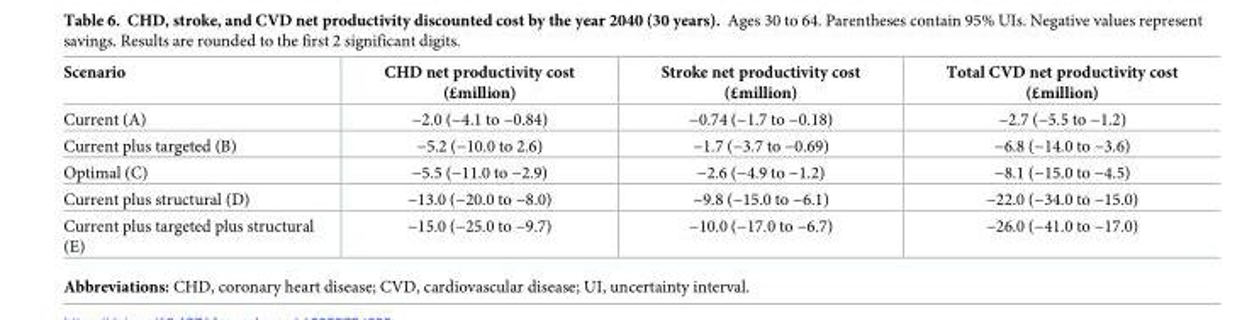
<table><thead><tr><td>Scenario</td><td>CHD net productivity cost (£million)</td><td>Stroke net productivity cost (£million)</td><td>Total CVD net productivity cost (£million)</td></tr></thead><tbody><tr><td>Current (A)</td><td>−2.0 (−4.1 to −0.84)</td><td>−0.74 (−1.7 to −0.18)</td><td>−2.7 (−5.5 to −1.2)</td></tr><tr><td>Current plus targeted (B)</td><td>−5.2 (−10.0 to 2.6)</td><td>−1.7 (−3.7 to −0.69)</td><td>−6.8 (−14.0 to −3.6)</td></tr><tr><td>Optimal (C)</td><td>−5.5 (−11.0 to −2.9)</td><td>−2.6 (−4.9 to −1.2)</td><td>−8.1 (−15.0 to −4.5)</td></tr><tr><td>Current plus structural (D)</td><td>−13.0 (−20.0 to −8.0)</td><td>−9.8 (−15.0 to −6.1)</td><td>−22.0 (−34.0 to −15.0)</td></tr><tr><td>Current plus targeted plus structural (E)</td><td>−15.0 (−25.0 to −9.7)</td><td>−10.0 (−17.0 to −6.7)</td><td>−26.0 (−41.0 to −17.0)</td></tr></tbody></table>